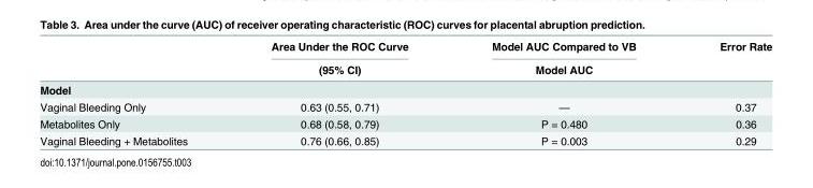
<table><thead><tr><td rowspan="2"></td><td rowspan="2">Area Under the ROC Curve (95% CI)</td><td rowspan="2">Model AUC Compared to VB Model AUC</td><td rowspan="2">Error Rate</td></tr><tr></tr></thead><tbody><tr><td colspan="4">Model</td></tr><tr><td>Vaginal Bleeding Only</td><td>0.63 (0.55, 0.71)</td><td>—</td><td>0.37</td></tr><tr><td>Metabolites Only</td><td>0.68 (0.58, 0.79)</td><td>P = 0.480</td><td>0.36</td></tr><tr><td>Vaginal Bleeding + Metabolites</td><td>0.76 (0.66, 0.85)</td><td>P = 0.003</td><td>0.29</td></tr></tbody></table>